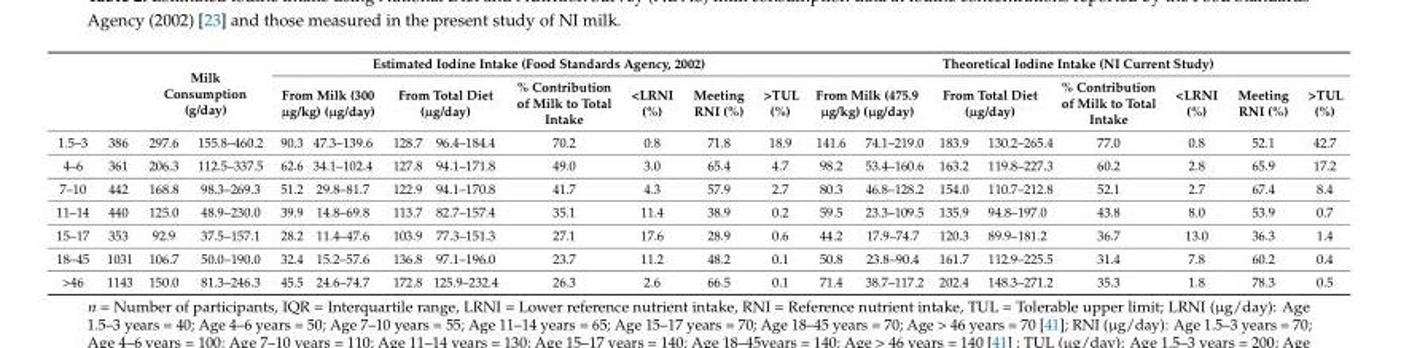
<table><thead><tr><td rowspan="3">1.5–3</td><td rowspan="3">386</td><td rowspan="2" colspan="2">Milk Consumption (g/day)</td><td colspan="8">Estimated Iodine Intake (Food Standards Agency, 2002)</td><td colspan="8">Theoretical Iodine Intake (NI Current Study)</td></tr><tr><td colspan="2">From Milk (300 µg/kg) (µg/day)</td><td colspan="2">From Total Diet (µg/day)</td><td rowspan="2">% Contribution of Milk to Total Intake 70.2</td><td rowspan="2">&lt;LRNI (%) 0.8</td><td rowspan="2">Meeting RNI (%) 71.8</td><td rowspan="2">&gt;TUL (%) 18.9</td><td colspan="2">From Milk (475.9 µg/kg) (µg/day)</td><td colspan="2">From Total Diet (µg/day)</td><td rowspan="2">% Contribution of Milk to Total Intake 77.0</td><td rowspan="2">&lt;LRNI (%) 0.8</td><td rowspan="2">Meeting RNI (%) 52.1</td><td rowspan="2">&gt;TUL (%) 42.7</td></tr><tr><td>297.6</td><td>155.8–460.2</td><td>90.3</td><td>47.3–139.6</td><td>128.7</td><td>96.4–184.4</td><td>141.6</td><td>74.1–219.0</td><td>183.9</td><td>130.2–265.4</td></tr></thead><tbody><tr><td>4–6</td><td>361</td><td>206.3</td><td>112.5–337.5</td><td>62.6</td><td>34.1–102.4</td><td>127.8</td><td>94.1–171.8</td><td>49.0</td><td>3.0</td><td>65.4</td><td>4.7</td><td>98.2</td><td>53.4–160.6</td><td>163.2</td><td>119.8–227.3</td><td>60.2</td><td>2.8</td><td>65.9</td><td>17.2</td></tr><tr><td>7–10</td><td>442</td><td>168.8</td><td>98.3–269.3</td><td>51.2</td><td>29.8–81.7</td><td>122.9</td><td>94.1–170.8</td><td>41.7</td><td>4.3</td><td>57.9</td><td>2.7</td><td>80.3</td><td>46.8–128.2</td><td>154.0</td><td>110.7–212.8</td><td>52.1</td><td>2.7</td><td>67.4</td><td>8.4</td></tr><tr><td>11–14</td><td>440</td><td>125.0</td><td>48.9–230.0</td><td>39.9</td><td>14.8–69.8</td><td>113.7</td><td>82.7–157.4</td><td>35.1</td><td>11.4</td><td>38.9</td><td>0.2</td><td>59.5</td><td>23.3–109.5</td><td>135.9</td><td>94.8–197.0</td><td>43.8</td><td>8.0</td><td>53.9</td><td>0.7</td></tr><tr><td>15–17</td><td>353</td><td>92.9</td><td>37.5–157.1</td><td>28.2</td><td>11.4–47.6</td><td>103.9</td><td>77.3–151.3</td><td>27.1</td><td>17.6</td><td>28.9</td><td>0.6</td><td>44.2</td><td>17.9–74.7</td><td>120.3</td><td>89.9–181.2</td><td>36.7</td><td>13.0</td><td>36.3</td><td>1.4</td></tr><tr><td>18–45</td><td>1031</td><td>106.7</td><td>50.0–190.0</td><td>32.4</td><td>15.2–57.6</td><td>136.8</td><td>97.1–196.0</td><td>23.7</td><td>11.2</td><td>48.2</td><td>0.1</td><td>50.8</td><td>23.8–90.4</td><td>161.7</td><td>112.9–225.5</td><td>31.4</td><td>7.8</td><td>60.2</td><td>0.4</td></tr><tr><td>&gt;46</td><td>1143</td><td>150.0</td><td>81.3–246.3</td><td>45.5</td><td>24.6–74.7</td><td>172.8</td><td>125.9–232.4</td><td>26.3</td><td>2.6</td><td>66.5</td><td>0.1</td><td>71.4</td><td>38.7–117.2</td><td>202.4</td><td>148.3–271.2</td><td>35.3</td><td>1.8</td><td>78.3</td><td>0.5</td></tr></tbody></table>